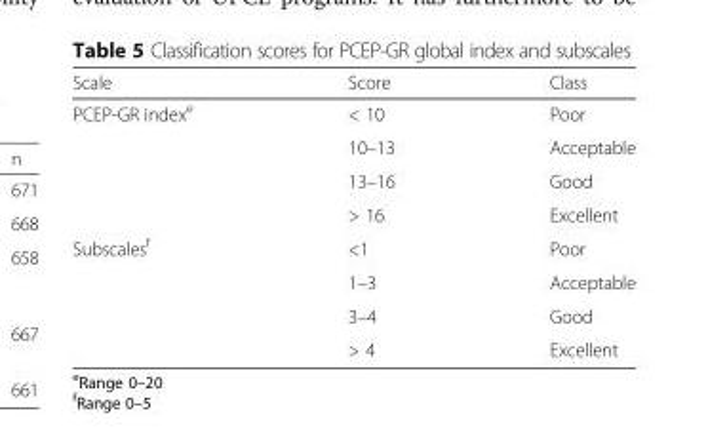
<table><thead><tr><td>Scale</td><td>Score</td><td>Class</td></tr></thead><tbody><tr><td rowspan="4">PCEP-GR index<sup>e</sup></td><td>&lt; 10</td><td>Poor</td></tr><tr><td>10–13</td><td>Acceptable</td></tr><tr><td>13–16</td><td>Good</td></tr><tr><td>&gt; 16</td><td>Excellent</td></tr><tr><td rowspan="4">Subscales<sup>f</sup></td><td>&lt;1</td><td>Poor</td></tr><tr><td>1–3</td><td>Acceptable</td></tr><tr><td>3–4</td><td>Good</td></tr><tr><td>&gt; 4</td><td>Excellent</td></tr></tbody></table>